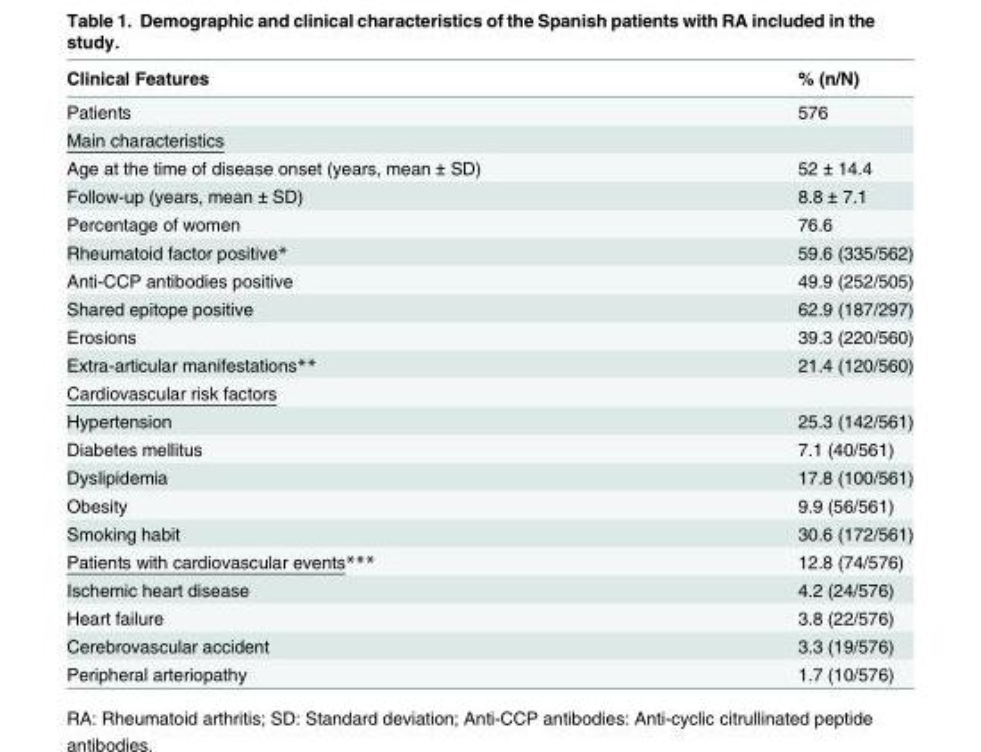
<table><thead><tr><td>Clinical Features</td><td>% (n/N)</td></tr></thead><tbody><tr><td>Patients</td><td>576</td></tr><tr><td colspan="2">Main characteristics</td></tr><tr><td>Age at the time of disease onset (years, mean ± SD)</td><td>52 ± 14.4</td></tr><tr><td>Follow-up (years, mean ± SD)</td><td>8.8 ± 7.1</td></tr><tr><td>Percentage of women</td><td>76.6</td></tr><tr><td>Rheumatoid factor positive*</td><td>59.6 (335/562)</td></tr><tr><td>Anti-CCP antibodies positive</td><td>49.9 (252/505)</td></tr><tr><td>Shared epitope positive</td><td>62.9 (187/297)</td></tr><tr><td>Erosions</td><td>39.3 (220/560)</td></tr><tr><td>Extra-articular manifestations**</td><td>21.4 (120/560)</td></tr><tr><td colspan="2">Cardiovascular risk factors</td></tr><tr><td>Hypertension</td><td>25.3 (142/561)</td></tr><tr><td>Diabetes mellitus</td><td>7.1 (40/561)</td></tr><tr><td>Dyslipidemia</td><td>17.8 (100/561)</td></tr><tr><td>Obesity</td><td>9.9 (56/561)</td></tr><tr><td>Smoking habit</td><td>30.6 (172/561)</td></tr><tr><td>Patients with cardiovascular events***</td><td>12.8 (74/576)</td></tr><tr><td>Ischemic heart disease</td><td>4.2 (24/576)</td></tr><tr><td>Heart failure</td><td>3.8 (22/576)</td></tr><tr><td>Cerebrovascular accident</td><td>3.3 (19/576)</td></tr><tr><td>Peripheral arteriopathy</td><td>1.7 (10/576)</td></tr></tbody></table>